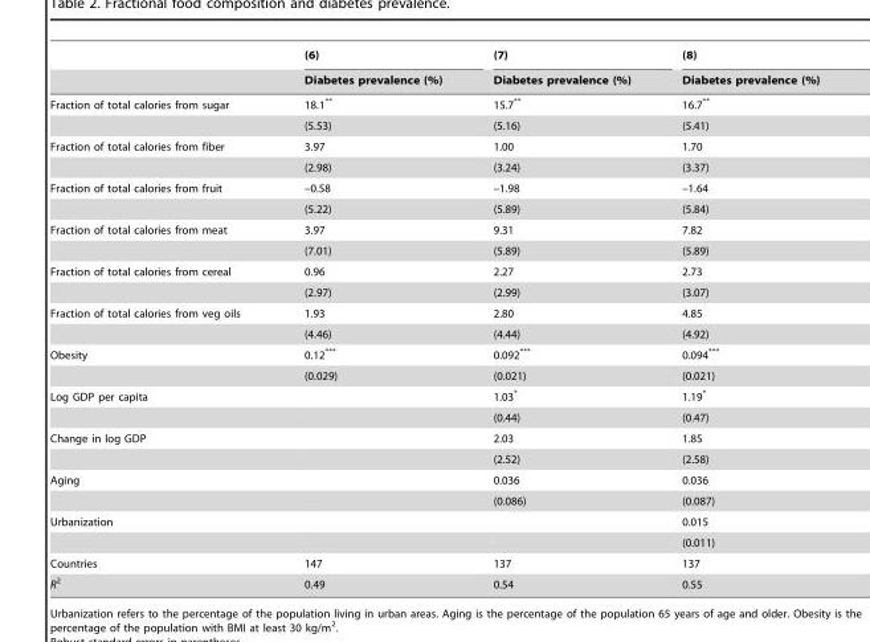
<table><thead><tr><td rowspan="2"></td><td rowspan="2">(6) Diabetes prevalence (%)</td><td rowspan="2">(7) Diabetes prevalence (%)</td><td rowspan="2">(8) Diabetes prevalence (%)</td></tr><tr></tr></thead><tbody><tr><td rowspan="2">Fraction of total calories from sugar</td><td>18.1**</td><td>15.7**</td><td>16.7**</td></tr><tr><td>(5.53)</td><td>(5.16)</td><td>(5.41)</td></tr><tr><td rowspan="2">Fraction of total calories from fiber</td><td>3.97</td><td>1.00</td><td>1.70</td></tr><tr><td>(2.98)</td><td>(3.24)</td><td>(3.37)</td></tr><tr><td rowspan="2">Fraction of total calories from fruit</td><td>–0.58</td><td>–1.98</td><td>–1.64</td></tr><tr><td>(5.22)</td><td>(5.89)</td><td>(5.84)</td></tr><tr><td rowspan="2">Fraction of total calories from meat</td><td>3.97</td><td>9.31</td><td>7.82</td></tr><tr><td>(7.01)</td><td>(5.89)</td><td>(5.89)</td></tr><tr><td rowspan="2">Fraction of total calories from cereal</td><td>0.96</td><td>2.27</td><td>2.73</td></tr><tr><td>(2.97)</td><td>(2.99)</td><td>(3.07)</td></tr><tr><td rowspan="2">Fraction of total calories from veg oils</td><td>1.93</td><td>2.80</td><td>4.85</td></tr><tr><td>(4.46)</td><td>(4.44)</td><td>(4.92)</td></tr><tr><td rowspan="2">Obesity</td><td>0.12***</td><td>0.092***</td><td>0.094***</td></tr><tr><td>(0.029)</td><td>(0.021)</td><td>(0.021)</td></tr><tr><td rowspan="2">Log GDP per capita</td><td></td><td>1.03*</td><td>1.19*</td></tr><tr><td></td><td>(0.44)</td><td>(0.47)</td></tr><tr><td rowspan="2">Change in log GDP</td><td></td><td>2.03</td><td>1.85</td></tr><tr><td></td><td>(2.52)</td><td>(2.58)</td></tr><tr><td rowspan="2">Aging</td><td></td><td>0.036</td><td>0.036</td></tr><tr><td></td><td>(0.086)</td><td>(0.087)</td></tr><tr><td rowspan="2">Urbanization</td><td></td><td></td><td>0.015</td></tr><tr><td></td><td></td><td>(0.011)</td></tr><tr><td>Countries</td><td>147</td><td>137</td><td>137</td></tr><tr><td>R<sup>2</sup></td><td>0.49</td><td>0.54</td><td>0.55</td></tr></tbody></table>